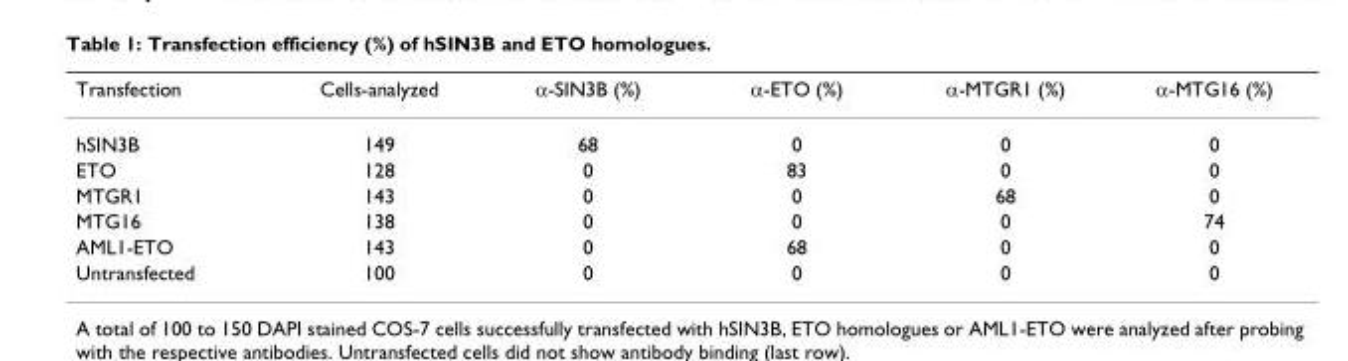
<table><thead><tr><td>Transfection</td><td>Cells-analyzed</td><td>α-SIN3B (%)</td><td>α-ETO (%)</td><td>α-MTGR1 (%)</td><td>α-MTG16 (%)</td></tr></thead><tbody><tr><td>hSIN3B</td><td>149</td><td>68</td><td>0</td><td>0</td><td>0</td></tr><tr><td>ETO</td><td>128</td><td>0</td><td>83</td><td>0</td><td>0</td></tr><tr><td>MTGR1</td><td>143</td><td>0</td><td>0</td><td>68</td><td>0</td></tr><tr><td>MTG16</td><td>138</td><td>0</td><td>0</td><td>0</td><td>74</td></tr><tr><td>AML1-ETO</td><td>143</td><td>0</td><td>68</td><td>0</td><td>0</td></tr><tr><td>Untransfected</td><td>100</td><td>0</td><td>0</td><td>0</td><td>0</td></tr></tbody></table>